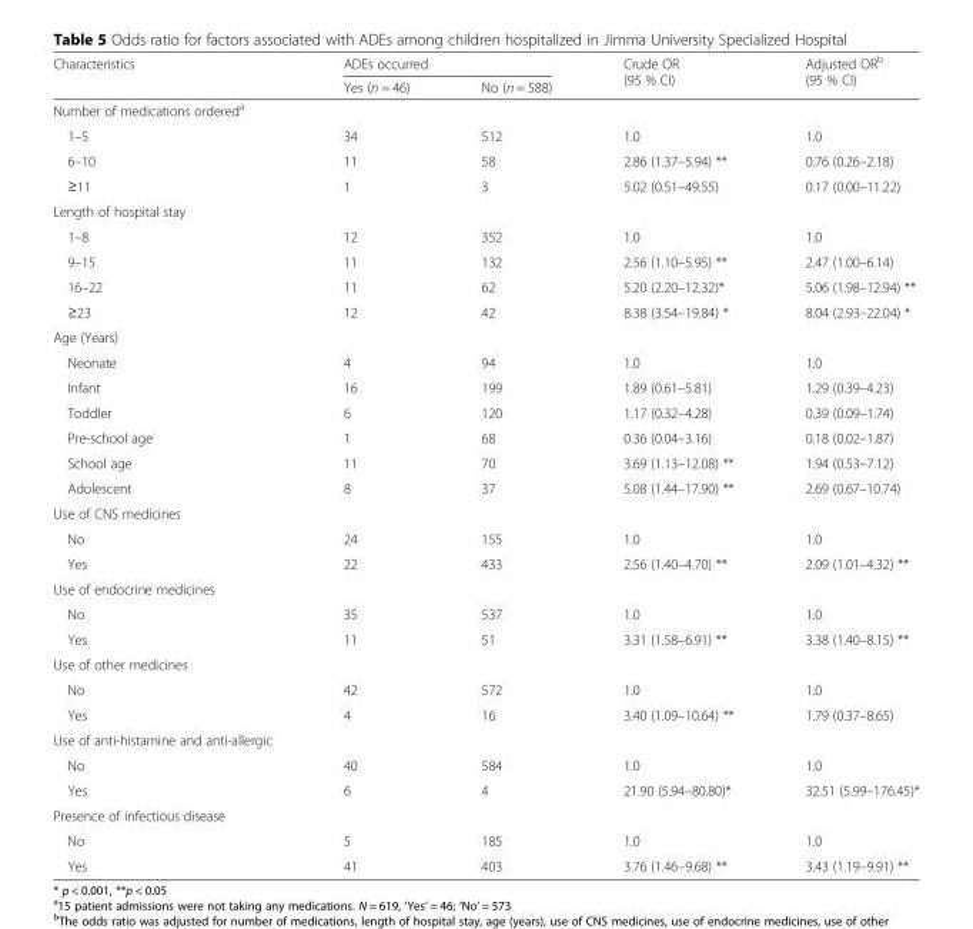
<table><thead><tr><td rowspan="2">Characteristics</td><td colspan="2">ADEs occurred</td><td rowspan="2">Crude OR (95 % CI)</td><td rowspan="2">Adjusted OR<sup>b</sup> (95 % CI)</td></tr><tr><td>Yes (n = 46)</td><td>No (n = 588)</td></tr></thead><tbody><tr><td colspan="5">Number of medications ordered<sup>a</sup></td></tr><tr><td>1–5</td><td>34</td><td>512</td><td>1.0</td><td>1.0</td></tr><tr><td>6–10</td><td>11</td><td>58</td><td>2.86 (1.37–5.94) **</td><td>0.76 (0.26–2.18)</td></tr><tr><td>≥11</td><td>1</td><td>3</td><td>5.02 (0.51–49.55)</td><td>0.17 (0.00–11.22)</td></tr><tr><td colspan="5">Length of hospital stay</td></tr><tr><td>1–8</td><td>12</td><td>352</td><td>1.0</td><td>1.0</td></tr><tr><td>9–15</td><td>11</td><td>132</td><td>2.56 (1.10–5.95) **</td><td>2.47 (1.00–6.14)</td></tr><tr><td>16–22</td><td>11</td><td>62</td><td>5.20 (2.20–12.32)*</td><td>5.06 (1.98–12.94) **</td></tr><tr><td>≥23</td><td>12</td><td>42</td><td>8.38 (3.54–19.84) *</td><td>8.04 (2.93–22.04) *</td></tr><tr><td colspan="5">Age (Years)</td></tr><tr><td>Neonate</td><td>4</td><td>94</td><td>1.0</td><td>1.0</td></tr><tr><td>Infant</td><td>16</td><td>199</td><td>1.89 (0.61–5.81)</td><td>1.29 (0.39–4.23)</td></tr><tr><td>Toddler</td><td>6</td><td>120</td><td>1.17 (0.32–4.28)</td><td>0.39 (0.09–1.74)</td></tr><tr><td>Pre-school age</td><td>1</td><td>68</td><td>0.36 (0.04–3.16)</td><td>0.18 (0.02–1.87)</td></tr><tr><td>School age</td><td>11</td><td>70</td><td>3.69 (1.13–12.08) **</td><td>1.94 (0.53–7.12)</td></tr><tr><td>Adolescent</td><td>8</td><td>37</td><td>5.08 (1.44–17.90) **</td><td>2.69 (0.67–10.74)</td></tr><tr><td colspan="5">Use of CNS medicines</td></tr><tr><td>No</td><td>24</td><td>155</td><td>1.0</td><td>1.0</td></tr><tr><td>Yes</td><td>22</td><td>433</td><td>2.56 (1.40–4.70) **</td><td>2.09 (1.01–4.32) **</td></tr><tr><td colspan="5">Use of endocrine medicines</td></tr><tr><td>No</td><td>35</td><td>537</td><td>1.0</td><td>1.0</td></tr><tr><td>Yes</td><td>11</td><td>51</td><td>3.31 (1.58–6.91) **</td><td>3.38 (1.40–8.15) **</td></tr><tr><td colspan="5">Use of other medicines</td></tr><tr><td>No</td><td>42</td><td>572</td><td>1.0</td><td>1.0</td></tr><tr><td>Yes</td><td>4</td><td>16</td><td>3.40 (1.09–10.64) **</td><td>1.79 (0.37–8.65)</td></tr><tr><td colspan="5">Use of anti-histamine and anti-allergic</td></tr><tr><td>No</td><td>40</td><td>584</td><td>1.0</td><td>1.0</td></tr><tr><td>Yes</td><td>6</td><td>4</td><td>21.90 (5.94–80.80)*</td><td>32.51 (5.99–176.45)*</td></tr><tr><td colspan="5">Presence of infectious disease</td></tr><tr><td>No</td><td>5</td><td>185</td><td>1.0</td><td>1.0</td></tr><tr><td>Yes</td><td>41</td><td>403</td><td>3.76 (1.46–9.68) **</td><td>3.43 (1.19–9.91) **</td></tr></tbody></table>